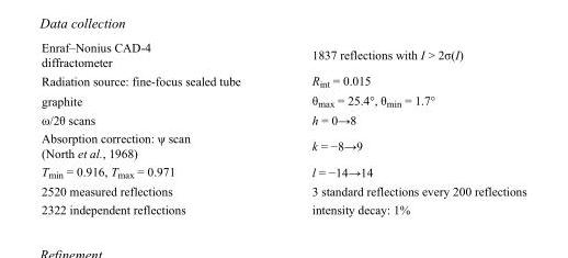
<table><tbody><tr><td>Enraf–Nonius CAD-4 diffractometer</td><td>1837 reflections with I &gt; 2σ(I)</td></tr><tr><td>Radiation source: fine-focus sealed tube</td><td>R<sub>int</sub> = 0.015</td></tr><tr><td>graphite</td><td>θ<sub>max</sub> = 25.4°, θ<sub>min</sub> = 1.7°</td></tr><tr><td>ω/2θ scans</td><td>h = 0→8</td></tr><tr><td>Absorption correction: ψ scan (North et al., 1968)</td><td>k = −8→9</td></tr><tr><td>T<sub>min</sub> = 0.916, T<sub>max</sub> = 0.971</td><td>l = −14→14</td></tr><tr><td>2520 measured reflections</td><td>3 standard reflections every 200 reflections</td></tr><tr><td>2322 independent reflections</td><td>intensity decay: 1%</td></tr></tbody></table>